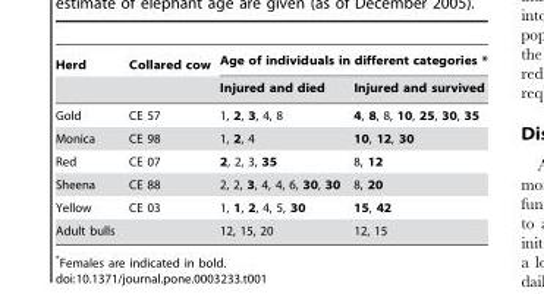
<table><thead><tr><td rowspan="2">Herd</td><td rowspan="2">Collared cow</td><td colspan="2">Age of individuals in different categories *</td></tr><tr><td>Injured and died</td><td>Injured and survived</td></tr></thead><tbody><tr><td>Gold</td><td>CE 57</td><td>1, 2, 3, 4, 8</td><td>4, 8, 8, 10, 25, 30, 35</td></tr><tr><td>Monica</td><td>CE 98</td><td>1, 2, 4</td><td>10, 12, 30</td></tr><tr><td>Red</td><td>CE 07</td><td>2, 2, 3, 35</td><td>8, 12</td></tr><tr><td>Sheena</td><td>CE 88</td><td>2, 2, 3, 4, 4, 6, 30, 30</td><td>8, 20</td></tr><tr><td>Yellow</td><td>CE 03</td><td>1, 1, 2, 4, 5, 30</td><td>15, 42</td></tr><tr><td>Adult bulls</td><td></td><td>12, 15, 20</td><td>12, 15</td></tr></tbody></table>